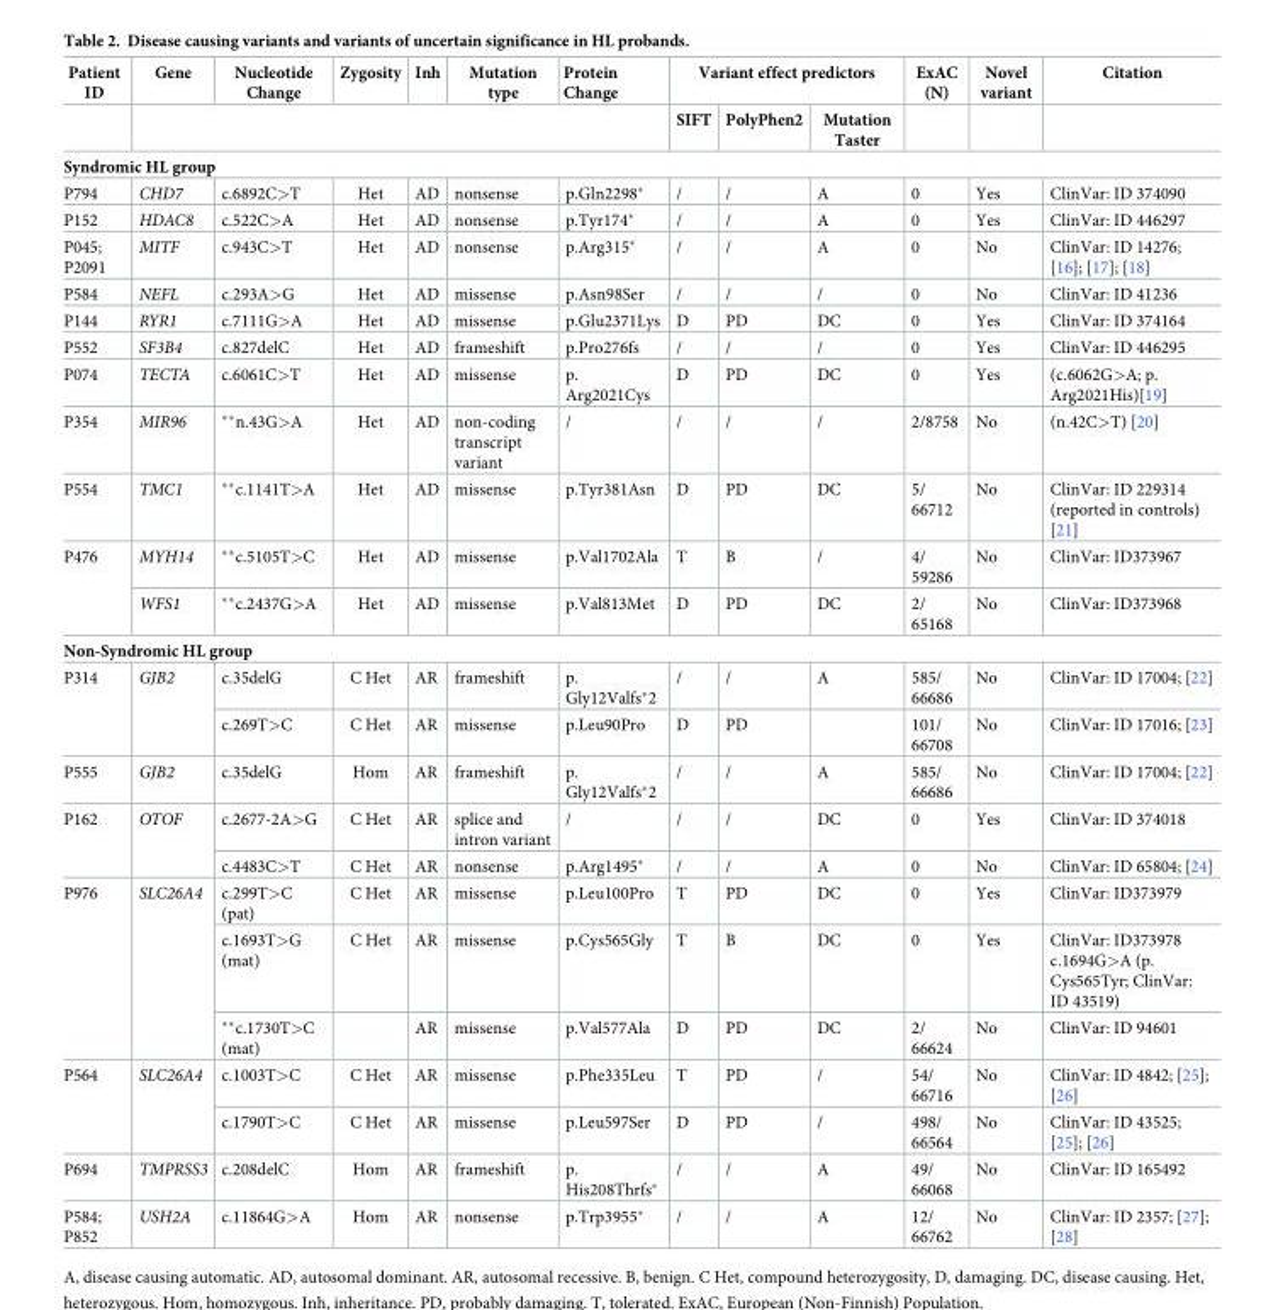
<table><thead><tr><td rowspan="2">Patient ID</td><td rowspan="2">Gene</td><td rowspan="2">Nucleotide Change</td><td rowspan="2">Zygosity</td><td rowspan="2">Inh</td><td rowspan="2">Mutation type</td><td rowspan="2">Protein Change</td><td colspan="3">Variant effect predictors</td><td rowspan="2">ExAC (N)</td><td rowspan="2">Novel variant</td><td rowspan="2">Citation</td></tr><tr><td>SIFT</td><td>PolyPhen2</td><td>Mutation Taster</td></tr></thead><tbody><tr><td colspan="13">Syndromic HL group</td></tr><tr><td>P794</td><td>CHD7</td><td>c.6892C&gt;T</td><td>Het</td><td>AD</td><td>nonsense</td><td>p.Gln2298*</td><td>/</td><td>/</td><td>A</td><td>0</td><td>Yes</td><td>ClinVar: ID 374090</td></tr><tr><td>P152</td><td>HDAC8</td><td>c.522C&gt;A</td><td>Het</td><td>AD</td><td>nonsense</td><td>p.Tyr174*</td><td>/</td><td>/</td><td>A</td><td>0</td><td>Yes</td><td>ClinVar: ID 446297</td></tr><tr><td>P045; P2091</td><td>MITF</td><td>c.943C&gt;T</td><td>Het</td><td>AD</td><td>nonsense</td><td>p.Arg315*</td><td>/</td><td>/</td><td>A</td><td>0</td><td>No</td><td>ClinVar: ID 14276; [16]; [17]; [18]</td></tr><tr><td>P584</td><td>NEFL</td><td>c.293A&gt;G</td><td>Het</td><td>AD</td><td>missense</td><td>p.Asn98Ser</td><td>/</td><td>/</td><td>/</td><td>0</td><td>No</td><td>ClinVar: ID 41236</td></tr><tr><td>P144</td><td>RYR1</td><td>c.7111G&gt;A</td><td>Het</td><td>AD</td><td>missense</td><td>p.Glu2371Lys</td><td>D</td><td>PD</td><td>DC</td><td>0</td><td>Yes</td><td>ClinVar: ID 374164</td></tr><tr><td>P552</td><td>SF3B4</td><td>c.827delC</td><td>Het</td><td>AD</td><td>frameshift</td><td>p.Pro276fs</td><td>/</td><td>/</td><td>/</td><td>0</td><td>Yes</td><td>ClinVar: ID 446295</td></tr><tr><td>P074</td><td>TECTA</td><td>c.6061C&gt;T</td><td>Het</td><td>AD</td><td>missense</td><td>p. Arg2021Cys</td><td>D</td><td>PD</td><td>DC</td><td>0</td><td>Yes</td><td>(c.6062G&gt;A; p. Arg2021His)[19]</td></tr><tr><td>P354</td><td>MIR96</td><td>**n.43G&gt;A</td><td>Het</td><td>AD</td><td>non-coding transcript variant</td><td>/</td><td>/</td><td>/</td><td>/</td><td>2/8758</td><td>No</td><td>(n.42C&gt;T) [20]</td></tr><tr><td>P554</td><td>TMC1</td><td>**c.1141T&gt;A</td><td>Het</td><td>AD</td><td>missense</td><td>p.Tyr381Asn</td><td>D</td><td>PD</td><td>DC</td><td>5/ 66712</td><td>No</td><td>ClinVar: ID 229314 (reported in controls) [21]</td></tr><tr><td rowspan="2">P476</td><td>MYH14</td><td>**c.5105T&gt;C</td><td>Het</td><td>AD</td><td>missense</td><td>p.Val1702Ala</td><td>T</td><td>B</td><td>/</td><td>4/ 59286</td><td>No</td><td>ClinVar: ID373967</td></tr><tr><td>WFS1</td><td>**c.2437G&gt;A</td><td>Het</td><td>AD</td><td>missense</td><td>p.Val813Met</td><td>D</td><td>PD</td><td>DC</td><td>2/ 65168</td><td>No</td><td>ClinVar: ID373968</td></tr><tr><td colspan="13">Non-Syndromic HL group</td></tr><tr><td rowspan="2">P314</td><td rowspan="2">GJB2</td><td>c.35delG</td><td>C Het</td><td>AR</td><td>frameshift</td><td>p. Gly12Valfs*2</td><td>/</td><td>/</td><td>A</td><td>585/ 66686</td><td>No</td><td>ClinVar: ID 17004; [22]</td></tr><tr><td>c.269T&gt;C</td><td>C Het</td><td>AR</td><td>missense</td><td>p.Leu90Pro</td><td>D</td><td>PD</td><td></td><td>101/ 66708</td><td>No</td><td>ClinVar: ID 17016; [23]</td></tr><tr><td>P555</td><td>GJB2</td><td>c.35delG</td><td>Hom</td><td>AR</td><td>frameshift</td><td>p. Gly12Valfs*2</td><td>/</td><td>/</td><td>A</td><td>585/ 66686</td><td>No</td><td>ClinVar: ID 17004; [22]</td></tr><tr><td rowspan="2">P162</td><td rowspan="2">OTOF</td><td>c.2677-2A&gt;G</td><td>C Het</td><td>AR</td><td>splice and intron variant</td><td>/</td><td>/</td><td>/</td><td>DC</td><td>0</td><td>Yes</td><td>ClinVar: ID 374018</td></tr><tr><td>c.4483C&gt;T</td><td>C Het</td><td>AR</td><td>nonsense</td><td>p.Arg1495*</td><td>/</td><td>/</td><td>A</td><td>0</td><td>No</td><td>ClinVar: ID 65804; [24]</td></tr><tr><td rowspan="3">P976</td><td rowspan="3">SLC26A4</td><td>c.299T&gt;C (pat)</td><td>C Het</td><td>AR</td><td>missense</td><td>p.Leu100Pro</td><td>T</td><td>PD</td><td>DC</td><td>0</td><td>Yes</td><td>ClinVar: ID373979</td></tr><tr><td>c.1693T&gt;G (mat)</td><td>C Het</td><td>AR</td><td>missense</td><td>p.Cys565Gly</td><td>T</td><td>B</td><td>DC</td><td>0</td><td>Yes</td><td>ClinVar: ID373978 c.1694G&gt;A (p. Cys565Tyr; ClinVar: ID 43519)</td></tr><tr><td>**c.1730T&gt;C (mat)</td><td></td><td>AR</td><td>missense</td><td>p.Val577Ala</td><td>D</td><td>PD</td><td>DC</td><td>2/ 66624</td><td>No</td><td>ClinVar: ID 94601</td></tr><tr><td rowspan="2">P564</td><td rowspan="2">SLC26A4</td><td>c.1003T&gt;C</td><td>C Het</td><td>AR</td><td>missense</td><td>p.Phe335Leu</td><td>T</td><td>PD</td><td>/</td><td>54/ 66716</td><td>No</td><td>ClinVar: ID 4842; [25]; [26]</td></tr><tr><td>c.1790T&gt;C</td><td>C Het</td><td>AR</td><td>missense</td><td>p.Leu597Ser</td><td>D</td><td>PD</td><td>/</td><td>498/ 66564</td><td>No</td><td>ClinVar: ID 43525; [25]; [26]</td></tr><tr><td>P694</td><td>TMPRSS3</td><td>c.208delC</td><td>Hom</td><td>AR</td><td>frameshift</td><td>p. His208Thrfs*</td><td>/</td><td>/</td><td>A</td><td>49/ 66068</td><td>No</td><td>ClinVar: ID 165492</td></tr><tr><td>P584; P852</td><td>USH2A</td><td>c.11864G&gt;A</td><td>Hom</td><td>AR</td><td>nonsense</td><td>p.Trp3955*</td><td>/</td><td>/</td><td>A</td><td>12/ 66762</td><td>No</td><td>ClinVar: ID 2357; [27]; [28]</td></tr></tbody></table>